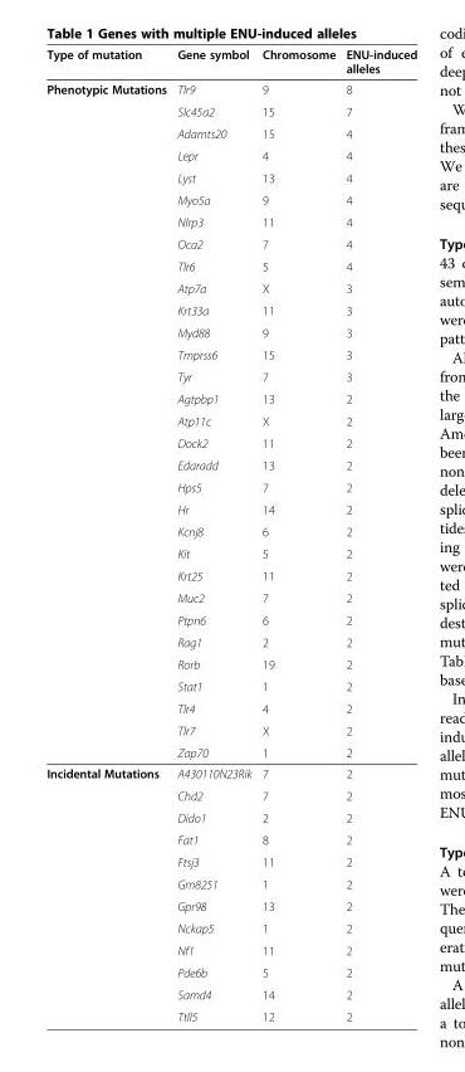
<table><thead><tr><td>Type of mutation</td><td>Gene symbol</td><td>Chromosome</td><td>ENU-induced alleles</td></tr></thead><tbody><tr><td rowspan="31">Phenotypic Mutations</td><td>Tlr9</td><td>9</td><td>8</td></tr><tr><td>Slc45a2</td><td>15</td><td>7</td></tr><tr><td>Adamts20</td><td>15</td><td>4</td></tr><tr><td>Lepr</td><td>4</td><td>4</td></tr><tr><td>Lyst</td><td>13</td><td>4</td></tr><tr><td>Myo5a</td><td>9</td><td>4</td></tr><tr><td>Nlrp3</td><td>11</td><td>4</td></tr><tr><td>Oca2</td><td>7</td><td>4</td></tr><tr><td>Tlr6</td><td>5</td><td>4</td></tr><tr><td>Atp7a</td><td>X</td><td>3</td></tr><tr><td>Krt33a</td><td>11</td><td>3</td></tr><tr><td>Myd88</td><td>9</td><td>3</td></tr><tr><td>Tmprss6</td><td>15</td><td>3</td></tr><tr><td>Tyr</td><td>7</td><td>3</td></tr><tr><td>Agtpbp1</td><td>13</td><td>2</td></tr><tr><td>Atp11c</td><td>X</td><td>2</td></tr><tr><td>Dock2</td><td>11</td><td>2</td></tr><tr><td>Edaradd</td><td>13</td><td>2</td></tr><tr><td>Hps5</td><td>7</td><td>2</td></tr><tr><td>Hr</td><td>14</td><td>2</td></tr><tr><td>Kcnj8</td><td>6</td><td>2</td></tr><tr><td>Kit</td><td>5</td><td>2</td></tr><tr><td>Krt25</td><td>11</td><td>2</td></tr><tr><td>Muc2</td><td>7</td><td>2</td></tr><tr><td>Ptpn6</td><td>6</td><td>2</td></tr><tr><td>Rag1</td><td>2</td><td>2</td></tr><tr><td>Rorb</td><td>19</td><td>2</td></tr><tr><td>Stat1</td><td>1</td><td>2</td></tr><tr><td>Tlr4</td><td>4</td><td>2</td></tr><tr><td>Tlr7</td><td>X</td><td>2</td></tr><tr><td>Zap70</td><td>1</td><td>2</td></tr><tr><td rowspan="12">Incidental Mutations</td><td>A430110N23Rik</td><td>7</td><td>2</td></tr><tr><td>Chd2</td><td>7</td><td>2</td></tr><tr><td>Dido1</td><td>2</td><td>2</td></tr><tr><td>Fat1</td><td>8</td><td>2</td></tr><tr><td>Ftsj3</td><td>11</td><td>2</td></tr><tr><td>Gm8251</td><td>1</td><td>2</td></tr><tr><td>Gpr98</td><td>13</td><td>2</td></tr><tr><td>Nckap5</td><td>1</td><td>2</td></tr><tr><td>Nf1</td><td>11</td><td>2</td></tr><tr><td>Pde6b</td><td>5</td><td>2</td></tr><tr><td>Samd4</td><td>14</td><td>2</td></tr><tr><td>Ttll5</td><td>12</td><td>2</td></tr></tbody></table>